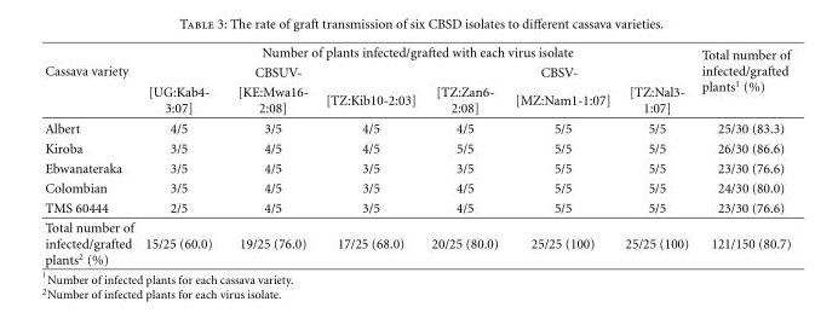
<table><thead><tr><td rowspan="3">Cassava variety</td><td colspan="6">Number of plants infected/grafted with each virus isolate</td><td rowspan="3">Total number of infected/grafted plants<sup>1</sup> (%)</td></tr><tr><td colspan="3">CBSUV-</td><td colspan="3">CBSV-</td></tr><tr><td>[UG:Kab4- 3:07]</td><td>[KE:Mwa16- 2:08]</td><td>[TZ:Kib10-2:03]</td><td>[TZ:Zan6- 2:08]</td><td>[MZ:Nam1-1:07]</td><td>[TZ:Nal3- 1:07]</td></tr></thead><tbody><tr><td>Albert</td><td>4/5</td><td>3/5</td><td>4/5</td><td>4/5</td><td>5/5</td><td>5/5</td><td>25/30 (83.3)</td></tr><tr><td>Kiroba</td><td>3/5</td><td>4/5</td><td>4/5</td><td>5/5</td><td>5/5</td><td>5/5</td><td>26/30 (86.6)</td></tr><tr><td>Ebwanateraka</td><td>3/5</td><td>4/5</td><td>3/5</td><td>3/5</td><td>5/5</td><td>5/5</td><td>23/30 (76.6)</td></tr><tr><td>Colombian</td><td>3/5</td><td>4/5</td><td>3/5</td><td>4/5</td><td>5/5</td><td>5/5</td><td>24/30 (80.0)</td></tr><tr><td>TMS 60444</td><td>2/5</td><td>4/5</td><td>3/5</td><td>4/5</td><td>5/5</td><td>5/5</td><td>23/30 (76.6)</td></tr><tr><td>Total number of infected/grafted plants<sup>2</sup> (%)</td><td>15/25 (60.0)</td><td>19/25 (76.0)</td><td>17/25 (68.0)</td><td>20/25 (80.0)</td><td>25/25 (100)</td><td>25/25 (100)</td><td>121/150 (80.7)</td></tr></tbody></table>